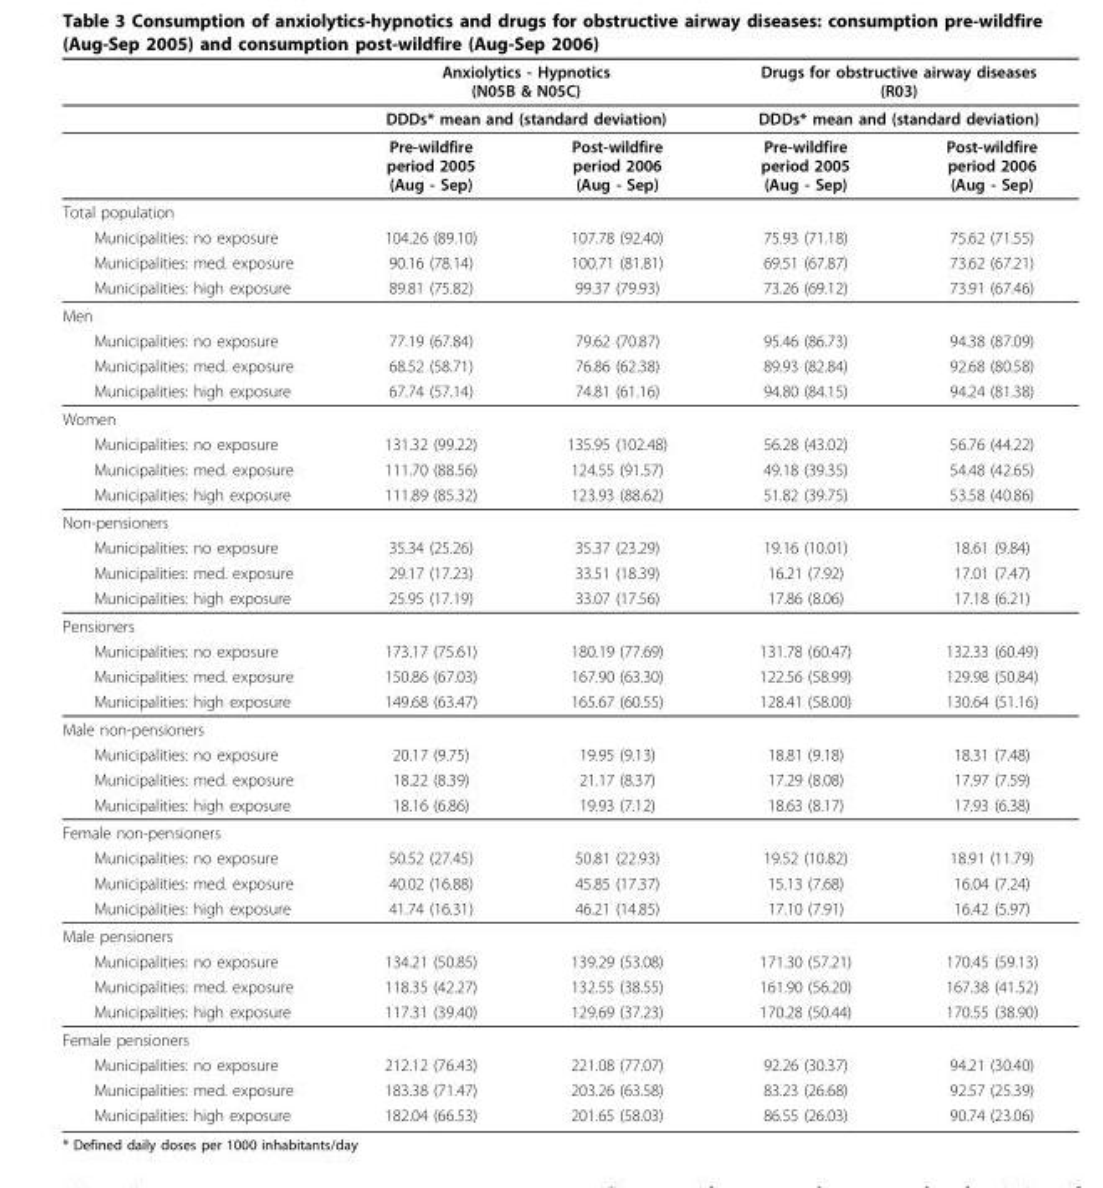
<table><thead><tr><td rowspan="3"></td><td rowspan="2" colspan="2">Anxiolytics - Hypnotics (N05B &amp; N05C) DDDs* mean and (standard deviation)</td><td rowspan="2" colspan="2">Drugs for obstructive airway diseases (R03) DDDs* mean and (standard deviation)</td></tr><tr></tr><tr><td>Pre-wildfire period 2005 (Aug - Sep)</td><td>Post-wildfire period 2006 (Aug - Sep)</td><td>Pre-wildfire period 2005 (Aug - Sep)</td><td>Post-wildfire period 2006 (Aug - Sep)</td></tr></thead><tbody><tr><td colspan="5">Total population</td></tr><tr><td>Municipalities: no exposure</td><td>104.26 (89.10)</td><td>107.78 (92.40)</td><td>75.93 (71.18)</td><td>75.62 (71.55)</td></tr><tr><td>Municipalities: med. exposure</td><td>90.16 (78.14)</td><td>100.71 (81.81)</td><td>69.51 (67.87)</td><td>73.62 (67.21)</td></tr><tr><td>Municipalities: high exposure</td><td>89.81 (75.82)</td><td>99.37 (79.93)</td><td>73.26 (69.12)</td><td>73.91 (67.46)</td></tr><tr><td colspan="5">Men</td></tr><tr><td>Municipalities: no exposure</td><td>77.19 (67.84)</td><td>79.62 (70.87)</td><td>95.46 (86.73)</td><td>94.38 (87.09)</td></tr><tr><td>Municipalities: med. exposure</td><td>68.52 (58.71)</td><td>76.86 (62.38)</td><td>89.93 (82.84)</td><td>92.68 (80.58)</td></tr><tr><td>Municipalities: high exposure</td><td>67.74 (57.14)</td><td>74.81 (61.16)</td><td>94.80 (84.15)</td><td>94.24 (81.38)</td></tr><tr><td colspan="5">Women</td></tr><tr><td>Municipalities: no exposure</td><td>131.32 (99.22)</td><td>135.95 (102.48)</td><td>56.28 (43.02)</td><td>56.76 (44.22)</td></tr><tr><td>Municipalities: med. exposure</td><td>111.70 (88.56)</td><td>124.55 (91.57)</td><td>49.18 (39.35)</td><td>54.48 (42.65)</td></tr><tr><td>Municipalities: high exposure</td><td>111.89 (85.32)</td><td>123.93 (88.62)</td><td>51.82 (39.75)</td><td>53.58 (40.86)</td></tr><tr><td colspan="5">Non-pensioners</td></tr><tr><td>Municipalities: no exposure</td><td>35.34 (25.26)</td><td>35.37 (23.29)</td><td>19.16 (10.01)</td><td>18.61 (9.84)</td></tr><tr><td>Municipalities: med. exposure</td><td>29.17 (17.23)</td><td>33.51 (18.39)</td><td>16.21 (7.92)</td><td>17.01 (7.47)</td></tr><tr><td>Municipalities: high exposure</td><td>25.95 (17.19)</td><td>33.07 (17.56)</td><td>17.86 (8.06)</td><td>17.18 (6.21)</td></tr><tr><td colspan="5">Pensioners</td></tr><tr><td>Municipalities: no exposure</td><td>173.17 (75.61)</td><td>180.19 (77.69)</td><td>131.78 (60.47)</td><td>132.33 (60.49)</td></tr><tr><td>Municipalities: med. exposure</td><td>150.86 (67.03)</td><td>167.90 (63.30)</td><td>122.56 (58.99)</td><td>129.98 (50.84)</td></tr><tr><td>Municipalities: high exposure</td><td>149.68 (63.47)</td><td>165.67 (60.55)</td><td>128.41 (58.00)</td><td>130.64 (51.16)</td></tr><tr><td colspan="5">Male non-pensioners</td></tr><tr><td>Municipalities: no exposure</td><td>20.17 (9.75)</td><td>19.95 (9.13)</td><td>18.81 (9.18)</td><td>18.31 (7.48)</td></tr><tr><td>Municipalities: med. exposure</td><td>18.22 (8.39)</td><td>21.17 (8.37)</td><td>17.29 (8.08)</td><td>17.97 (7.59)</td></tr><tr><td>Municipalities: high exposure</td><td>18.16 (6.86)</td><td>19.93 (7.12)</td><td>18.63 (8.17)</td><td>17.93 (6.38)</td></tr><tr><td colspan="5">Female non-pensioners</td></tr><tr><td>Municipalities: no exposure</td><td>50.52 (27.45)</td><td>50.81 (22.93)</td><td>19.52 (10.82)</td><td>18.91 (11.79)</td></tr><tr><td>Municipalities: med. exposure</td><td>40.02 (16.88)</td><td>45.85 (17.37)</td><td>15.13 (7.68)</td><td>16.04 (7.24)</td></tr><tr><td>Municipalities: high exposure</td><td>41.74 (16.31)</td><td>46.21 (14.85)</td><td>17.10 (7.91)</td><td>16.42 (5.97)</td></tr><tr><td colspan="5">Male pensioners</td></tr><tr><td>Municipalities: no exposure</td><td>134.21 (50.85)</td><td>139.29 (53.08)</td><td>171.30 (57.21)</td><td>170.45 (59.13)</td></tr><tr><td>Municipalities: med. exposure</td><td>118.35 (42.27)</td><td>132.55 (38.55)</td><td>161.90 (56.20)</td><td>167.38 (41.52)</td></tr><tr><td>Municipalities: high exposure</td><td>117.31 (39.40)</td><td>129.69 (37.23)</td><td>170.28 (50.44)</td><td>170.55 (38.90)</td></tr><tr><td colspan="5">Female pensioners</td></tr><tr><td>Municipalities: no exposure</td><td>212.12 (76.43)</td><td>221.08 (77.07)</td><td>92.26 (30.37)</td><td>94.21 (30.40)</td></tr><tr><td>Municipalities: med. exposure</td><td>183.38 (71.47)</td><td>203.26 (63.58)</td><td>83.23 (26.68)</td><td>92.57 (25.39)</td></tr><tr><td>Municipalities: high exposure</td><td>182.04 (66.53)</td><td>201.65 (58.03)</td><td>86.55 (26.03)</td><td>90.74 (23.06)</td></tr></tbody></table>